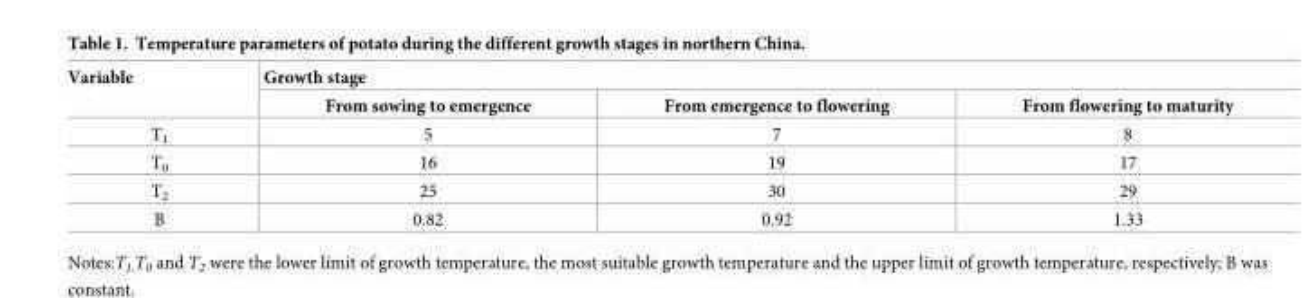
<table><thead><tr><td rowspan="2">Variable</td><td colspan="3">Growth stage</td></tr><tr><td>From sowing to emergence</td><td>From emergence to flowering</td><td>From flowering to maturity</td></tr></thead><tbody><tr><td>T<sub>1</sub></td><td>5</td><td>7</td><td>8</td></tr><tr><td>T<sub>0</sub></td><td>16</td><td>19</td><td>17</td></tr><tr><td>T<sub>2</sub></td><td>25</td><td>30</td><td>29</td></tr><tr><td>B</td><td>0.82</td><td>0.92</td><td>1.33</td></tr></tbody></table>